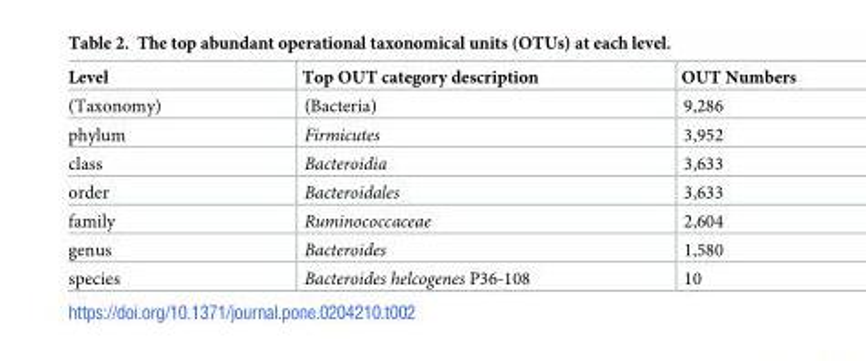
<table><thead><tr><td>Level</td><td>Top OUT category description</td><td>OUT Numbers</td></tr></thead><tbody><tr><td>(Taxonomy)</td><td>(Bacteria)</td><td>9,286</td></tr><tr><td>phylum</td><td>Firmicutes</td><td>3,952</td></tr><tr><td>class</td><td>Bacteroidia</td><td>3,633</td></tr><tr><td>order</td><td>Bacteroidales</td><td>3,633</td></tr><tr><td>family</td><td>Ruminococcaceae</td><td>2,604</td></tr><tr><td>genus</td><td>Bacteroides</td><td>1,580</td></tr><tr><td>species</td><td>Bacteroides helcogenes P36-108</td><td>10</td></tr></tbody></table>